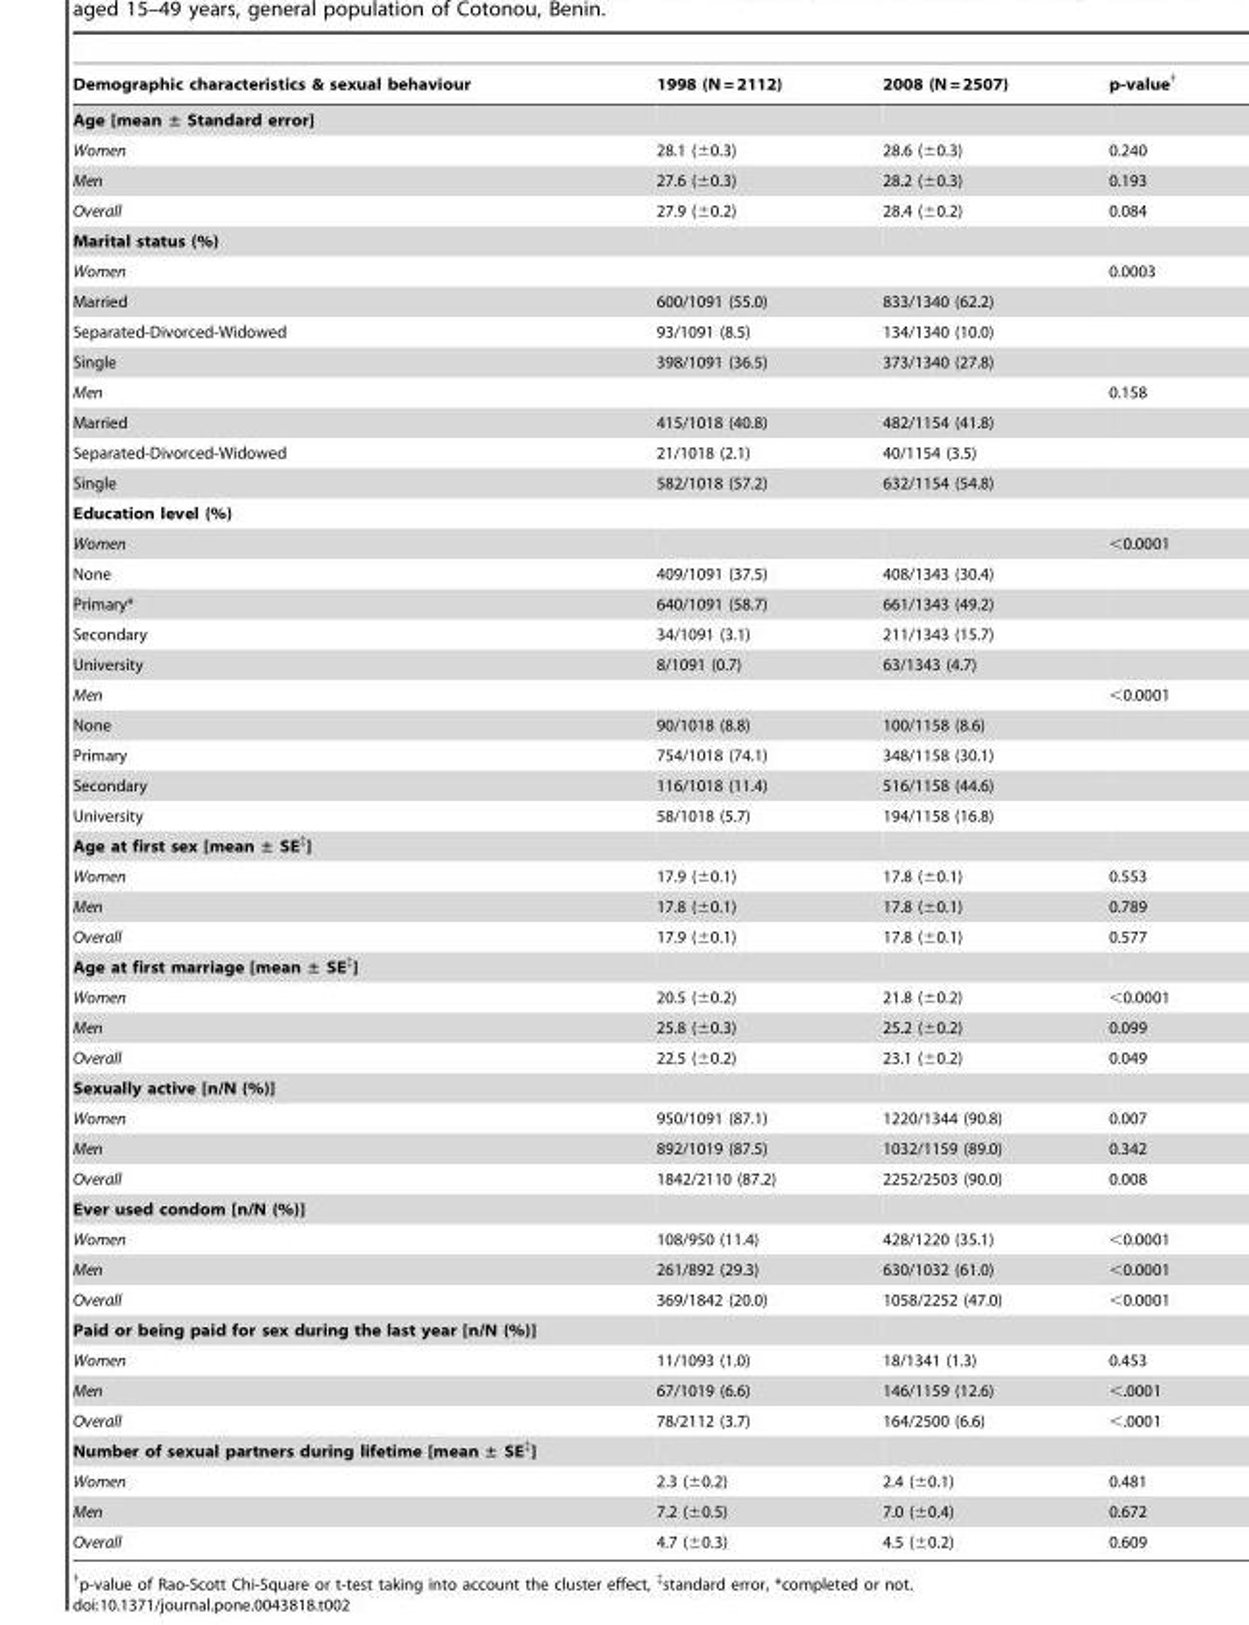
<table><thead><tr><td>Demographic characteristics &amp; sexual behaviour</td><td>1998 (N = 2112)</td><td>2008 (N = 2507)</td><td>p-value†</td></tr></thead><tbody><tr><td colspan="4">Age [mean ± Standard error]</td></tr><tr><td>Women</td><td>28.1 (±0.3)</td><td>28.6 (±0.3)</td><td>0.240</td></tr><tr><td>Men</td><td>27.6 (±0.3)</td><td>28.2 (±0.3)</td><td>0.193</td></tr><tr><td>Overall</td><td>27.9 (±0.2)</td><td>28.4 (±0.2)</td><td>0.084</td></tr><tr><td colspan="4">Marital status (%)</td></tr><tr><td>Women</td><td></td><td></td><td>0.0003</td></tr><tr><td>Married</td><td>600/1091 (55.0)</td><td>833/1340 (62.2)</td><td></td></tr><tr><td>Separated-Divorced-Widowed</td><td>93/1091 (8.5)</td><td>134/1340 (10.0)</td><td></td></tr><tr><td>Single</td><td>398/1091 (36.5)</td><td>373/1340 (27.8)</td><td></td></tr><tr><td>Men</td><td></td><td></td><td>0.158</td></tr><tr><td>Married</td><td>415/1018 (40.8)</td><td>482/1154 (41.8)</td><td></td></tr><tr><td>Separated-Divorced-Widowed</td><td>21/1018 (2.1)</td><td>40/1154 (3.5)</td><td></td></tr><tr><td>Single</td><td>582/1018 (57.2)</td><td>632/1154 (54.8)</td><td></td></tr><tr><td colspan="4">Education level (%)</td></tr><tr><td>Women</td><td></td><td></td><td>&lt;0.0001</td></tr><tr><td>None</td><td>409/1091 (37.5)</td><td>408/1343 (30.4)</td><td></td></tr><tr><td>Primary*</td><td>640/1091 (58.7)</td><td>661/1343 (49.2)</td><td></td></tr><tr><td>Secondary</td><td>34/1091 (3.1)</td><td>211/1343 (15.7)</td><td></td></tr><tr><td>University</td><td>8/1091 (0.7)</td><td>63/1343 (4.7)</td><td></td></tr><tr><td>Men</td><td></td><td></td><td>&lt;0.0001</td></tr><tr><td>None</td><td>90/1018 (8.8)</td><td>100/1158 (8.6)</td><td></td></tr><tr><td>Primary</td><td>754/1018 (74.1)</td><td>348/1158 (30.1)</td><td></td></tr><tr><td>Secondary</td><td>116/1018 (11.4)</td><td>516/1158 (44.6)</td><td></td></tr><tr><td>University</td><td>58/1018 (5.7)</td><td>194/1158 (16.8)</td><td></td></tr><tr><td colspan="4">Age at first sex [mean ± SE<sup>‡</sup>]</td></tr><tr><td>Women</td><td>17.9 (±0.1)</td><td>17.8 (±0.1)</td><td>0.553</td></tr><tr><td>Men</td><td>17.8 (±0.1)</td><td>17.8 (±0.1)</td><td>0.789</td></tr><tr><td>Overall</td><td>17.9 (±0.1)</td><td>17.8 (±0.1)</td><td>0.577</td></tr><tr><td colspan="4">Age at first marriage [mean ± SE<sup>‡</sup>]</td></tr><tr><td>Women</td><td>20.5 (±0.2)</td><td>21.8 (±0.2)</td><td>&lt;0.0001</td></tr><tr><td>Men</td><td>25.8 (±0.3)</td><td>25.2 (±0.2)</td><td>0.099</td></tr><tr><td>Overall</td><td>22.5 (±0.2)</td><td>23.1 (±0.2)</td><td>0.049</td></tr><tr><td colspan="4">Sexually active [n/N (%)]</td></tr><tr><td>Women</td><td>950/1091 (87.1)</td><td>1220/1344 (90.8)</td><td>0.007</td></tr><tr><td>Men</td><td>892/1019 (87.5)</td><td>1032/1159 (89.0)</td><td>0.342</td></tr><tr><td>Overall</td><td>1842/2110 (87.2)</td><td>2252/2503 (90.0)</td><td>0.008</td></tr><tr><td colspan="4">Ever used condom [n/N (%)]</td></tr><tr><td>Women</td><td>108/950 (11.4)</td><td>428/1220 (35.1)</td><td>&lt;0.0001</td></tr><tr><td>Men</td><td>261/892 (29.3)</td><td>630/1032 (61.0)</td><td>&lt;0.0001</td></tr><tr><td>Overall</td><td>369/1842 (20.0)</td><td>1058/2252 (47.0)</td><td>&lt;0.0001</td></tr><tr><td colspan="4">Paid or being paid for sex during the last year [n/N (%)]</td></tr><tr><td>Women</td><td>11/1093 (1.0)</td><td>18/1341 (1.3)</td><td>0.453</td></tr><tr><td>Men</td><td>67/1019 (6.6)</td><td>146/1159 (12.6)</td><td>&lt;.0001</td></tr><tr><td>Overall</td><td>78/2112 (3.7)</td><td>164/2500 (6.6)</td><td>&lt;.0001</td></tr><tr><td colspan="4">Number of sexual partners during lifetime [mean ± SE<sup>‡</sup>]</td></tr><tr><td>Women</td><td>2.3 (±0.2)</td><td>2.4 (±0.1)</td><td>0.481</td></tr><tr><td>Men</td><td>7.2 (±0.5)</td><td>7.0 (±0.4)</td><td>0.672</td></tr><tr><td>Overall</td><td>4.7 (±0.3)</td><td>4.5 (±0.2)</td><td>0.609</td></tr></tbody></table>